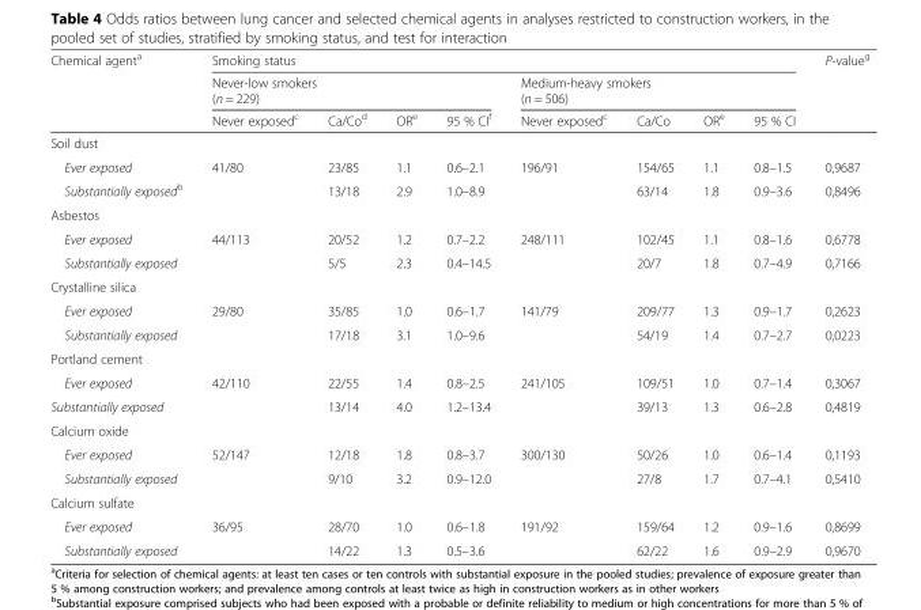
<table><thead><tr><td rowspan="3">Chemical agent<sup>a</sup></td><td colspan="8">Smoking status</td><td rowspan="3">P-value<sup>g</sup></td></tr><tr><td colspan="4">Never-low smokers (n = 229)</td><td colspan="4">Medium-heavy smokers (n = 506)</td></tr><tr><td>Never exposed<sup>c</sup></td><td>Ca/Co<sup>d</sup></td><td>OR<sup>e</sup></td><td>95 % CI<sup>f</sup></td><td>Never exposed<sup>c</sup></td><td>Ca/Co</td><td>OR<sup>e</sup></td><td>95 % CI</td></tr></thead><tbody><tr><td colspan="10">Soil dust</td></tr><tr><td>Ever exposed</td><td>41/80</td><td>23/85</td><td>1.1</td><td>0.6–2.1</td><td>196/91</td><td>154/65</td><td>1.1</td><td>0.8–1.5</td><td>0,9687</td></tr><tr><td>Substantially exposed<sup>b</sup></td><td></td><td>13/18</td><td>2.9</td><td>1.0–8.9</td><td></td><td>63/14</td><td>1.8</td><td>0.9–3.6</td><td>0,8496</td></tr><tr><td colspan="10">Asbestos</td></tr><tr><td>Ever exposed</td><td>44/113</td><td>20/52</td><td>1.2</td><td>0.7–2.2</td><td>248/111</td><td>102/45</td><td>1.1</td><td>0.8–1.6</td><td>0,6778</td></tr><tr><td>Substantially exposed</td><td></td><td>5/5</td><td>2.3</td><td>0.4–14.5</td><td></td><td>20/7</td><td>1.8</td><td>0.7–4.9</td><td>0,7166</td></tr><tr><td colspan="10">Crystalline silica</td></tr><tr><td>Ever exposed</td><td>29/80</td><td>35/85</td><td>1.0</td><td>0.6–1.7</td><td>141/79</td><td>209/77</td><td>1.3</td><td>0.9–1.7</td><td>0,2623</td></tr><tr><td>Substantially exposed</td><td></td><td>17/18</td><td>3.1</td><td>1.0–9.6</td><td></td><td>54/19</td><td>1.4</td><td>0.7–2.7</td><td>0,0223</td></tr><tr><td colspan="10">Portland cement</td></tr><tr><td>Ever exposed</td><td>42/110</td><td>22/55</td><td>1.4</td><td>0.8–2.5</td><td>241/105</td><td>109/51</td><td>1.0</td><td>0.7–1.4</td><td>0,3067</td></tr><tr><td>Substantially exposed</td><td></td><td>13/14</td><td>4.0</td><td>1.2–13.4</td><td></td><td>39/13</td><td>1.3</td><td>0.6–2.8</td><td>0,4819</td></tr><tr><td colspan="10">Calcium oxide</td></tr><tr><td>Ever exposed</td><td>52/147</td><td>12/18</td><td>1.8</td><td>0.8–3.7</td><td>300/130</td><td>50/26</td><td>1.0</td><td>0.6–1.4</td><td>0,1193</td></tr><tr><td>Substantially exposed</td><td></td><td>9/10</td><td>3.2</td><td>0.9–12.0</td><td></td><td>27/8</td><td>1.7</td><td>0.7–4.1</td><td>0,5410</td></tr><tr><td colspan="10">Calcium sulfate</td></tr><tr><td>Ever exposed</td><td>36/95</td><td>28/70</td><td>1.0</td><td>0.6–1.8</td><td>191/92</td><td>159/64</td><td>1.2</td><td>0.9–1.6</td><td>0,8699</td></tr><tr><td>Substantially exposed</td><td></td><td>14/22</td><td>1.3</td><td>0.5–3.6</td><td></td><td>62/22</td><td>1.6</td><td>0.9–2.9</td><td>0,9670</td></tr></tbody></table>